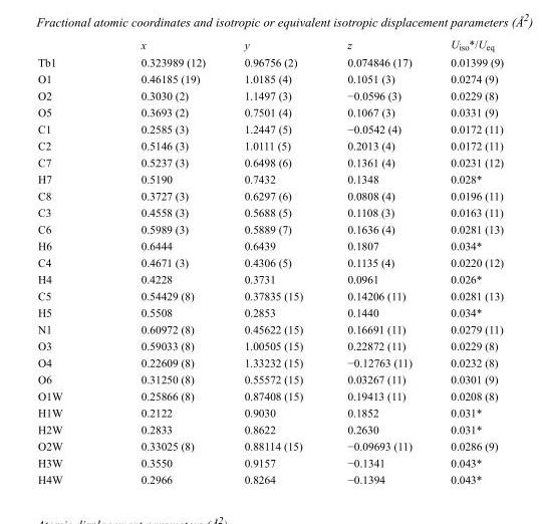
<table><thead><tr><td></td><td>x</td><td>y</td><td>z</td><td>U<sub>iso</sub>*/U<sub>eq</sub></td></tr></thead><tbody><tr><td>Tb1</td><td>0.323989 (12)</td><td>0.96756 (2)</td><td>0.074846 (17)</td><td>0.01399 (9)</td></tr><tr><td>O1</td><td>0.46185 (19)</td><td>1.0185 (4)</td><td>0.1051 (3)</td><td>0.0274 (9)</td></tr><tr><td>O2</td><td>0.3030 (2)</td><td>1.1497 (3)</td><td>−0.0596 (3)</td><td>0.0229 (8)</td></tr><tr><td>O5</td><td>0.3693 (2)</td><td>0.7501 (4)</td><td>0.1067 (3)</td><td>0.0331 (9)</td></tr><tr><td>C1</td><td>0.2585 (3)</td><td>1.2447 (5)</td><td>−0.0542 (4)</td><td>0.0172 (11)</td></tr><tr><td>C2</td><td>0.5146 (3)</td><td>1.0111 (5)</td><td>0.2013 (4)</td><td>0.0172 (11)</td></tr><tr><td>C7</td><td>0.5237 (3)</td><td>0.6498 (6)</td><td>0.1361 (4)</td><td>0.0231 (12)</td></tr><tr><td>H7</td><td>0.5190</td><td>0.7432</td><td>0.1348</td><td>0.028*</td></tr><tr><td>C8</td><td>0.3727 (3)</td><td>0.6297 (6)</td><td>0.0808 (4)</td><td>0.0196 (11)</td></tr><tr><td>C3</td><td>0.4558 (3)</td><td>0.5688 (5)</td><td>0.1108 (3)</td><td>0.0163 (11)</td></tr><tr><td>C6</td><td>0.5989 (3)</td><td>0.5889 (7)</td><td>0.1636 (4)</td><td>0.0281 (13)</td></tr><tr><td>H6</td><td>0.6444</td><td>0.6439</td><td>0.1807</td><td>0.034*</td></tr><tr><td>C4</td><td>0.4671 (3)</td><td>0.4306 (5)</td><td>0.1135 (4)</td><td>0.0220 (12)</td></tr><tr><td>H4</td><td>0.4228</td><td>0.3731</td><td>0.0961</td><td>0.026*</td></tr><tr><td>C5</td><td>0.54429 (8)</td><td>0.37835 (15)</td><td>0.14206 (11)</td><td>0.0281 (13)</td></tr><tr><td>H5</td><td>0.5508</td><td>0.2853</td><td>0.1440</td><td>0.034*</td></tr><tr><td>N1</td><td>0.60972 (8)</td><td>0.45622 (15)</td><td>0.16691 (11)</td><td>0.0279 (11)</td></tr><tr><td>O3</td><td>0.59033 (8)</td><td>1.00505 (15)</td><td>0.22872 (11)</td><td>0.0229 (8)</td></tr><tr><td>O4</td><td>0.22609 (8)</td><td>1.33232 (15)</td><td>−0.12763 (11)</td><td>0.0232 (8)</td></tr><tr><td>O6</td><td>0.31250 (8)</td><td>0.55572 (15)</td><td>0.03267 (11)</td><td>0.0301 (9)</td></tr><tr><td>O1W</td><td>0.25866 (8)</td><td>0.87408 (15)</td><td>0.19413 (11)</td><td>0.0208 (8)</td></tr><tr><td>H1W</td><td>0.2122</td><td>0.9030</td><td>0.1852</td><td>0.031*</td></tr><tr><td>H2W</td><td>0.2833</td><td>0.8622</td><td>0.2630</td><td>0.031*</td></tr><tr><td>O2W</td><td>0.33025 (8)</td><td>0.88114 (15)</td><td>−0.09693 (11)</td><td>0.0286 (9)</td></tr><tr><td>H3W</td><td>0.3550</td><td>0.9157</td><td>−0.1341</td><td>0.043*</td></tr><tr><td>H4W</td><td>0.2966</td><td>0.8264</td><td>−0.1394</td><td>0.043*</td></tr></tbody></table>